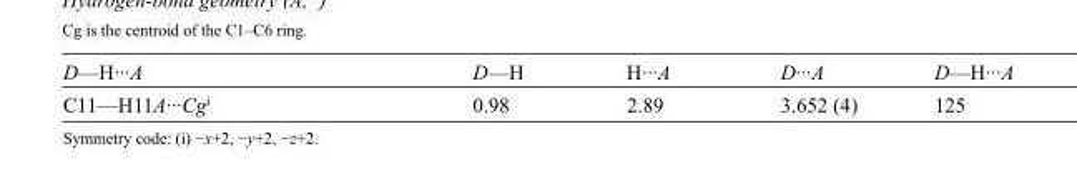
<table><tbody><tr><td>D—H···A</td><td>D—H</td><td>H···A</td><td>D···A</td><td>D—H···A</td></tr><tr><td>C11—H11A···Cg<sup>i</sup></td><td>0.98</td><td>2.89</td><td>3.652 (4)</td><td>125</td></tr></tbody></table>